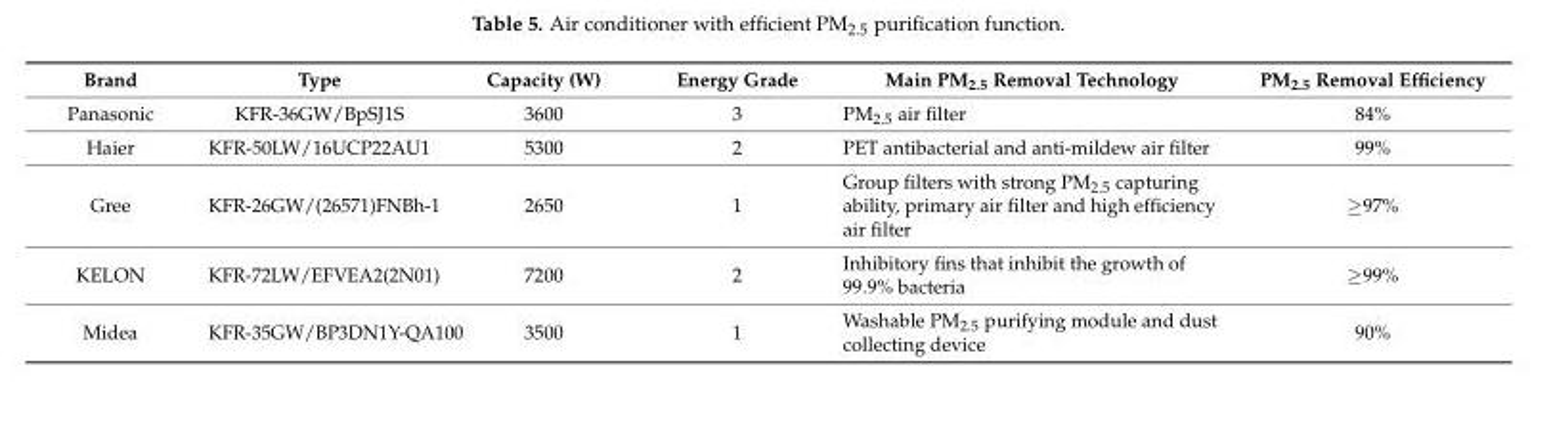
<table><thead><tr><td>Brand</td><td>Type</td><td>Capacity (W)</td><td>Energy Grade</td><td>Main PM<sub>2.5</sub> Removal Technology</td><td>PM<sub>2.5</sub> Removal Efficiency</td></tr></thead><tbody><tr><td>Panasonic</td><td>KFR-36GW/BpSJ1S</td><td>3600</td><td>3</td><td>PM<sub>2.5</sub> air filter</td><td>84%</td></tr><tr><td>Haier</td><td>KFR-50LW/16UCP22AU1</td><td>5300</td><td>2</td><td>PET antibacterial and anti-mildew air filter</td><td>99%</td></tr><tr><td>Gree</td><td>KFR-26GW/(26571)FNBh-1</td><td>2650</td><td>1</td><td>Group filters with strong PM<sub>2.5</sub> capturing ability, primary air filter and high efficiency air filter</td><td>≥97%</td></tr><tr><td>KELON</td><td>KFR-72LW/EFVEA2(2N01)</td><td>7200</td><td>2</td><td>Inhibitory fins that inhibit the growth of 99.9% bacteria</td><td>≥99%</td></tr><tr><td>Midea</td><td>KFR-35GW/BP3DN1Y-QA100</td><td>3500</td><td>1</td><td>Washable PM<sub>2.5</sub> purifying module and dust collecting device</td><td>90%</td></tr></tbody></table>